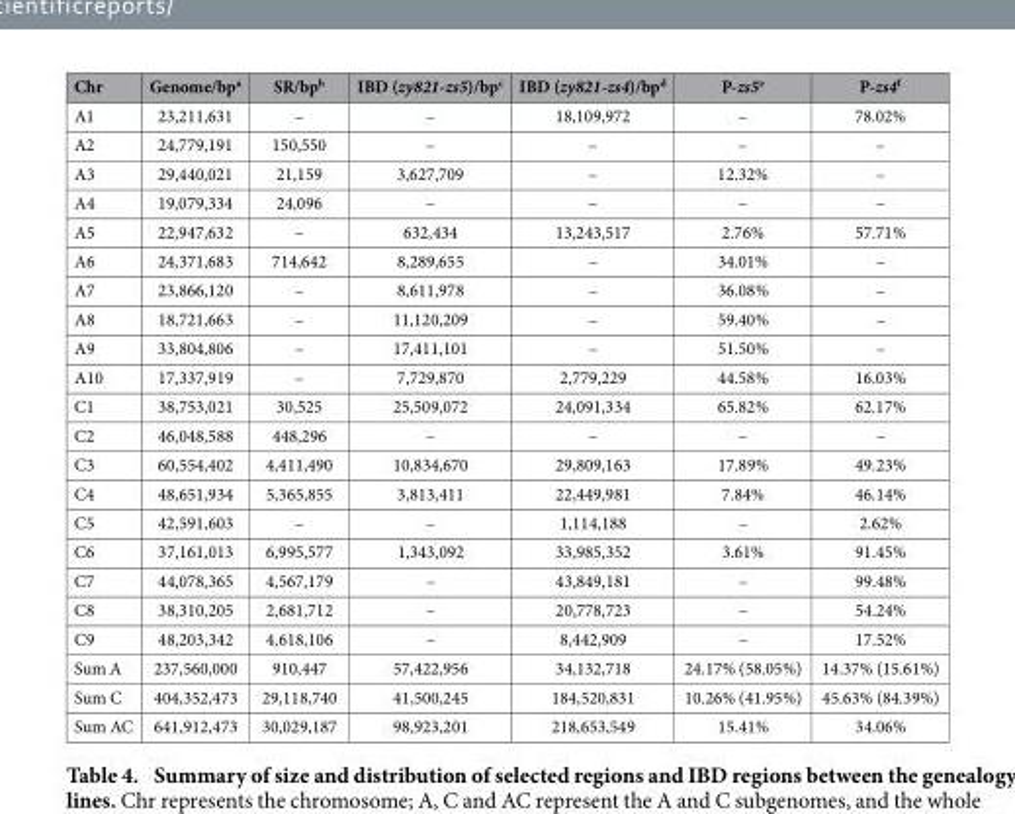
<table><thead><tr><td>Chr</td><td>Genome/bp<sup>a</sup></td><td>SR/bp<sup>b</sup></td><td>IBD (zy821-zs5)/bp<sup>c</sup></td><td>IBD (zy821-zs4)/bp<sup>d</sup></td><td>P-zs5<sup>e</sup></td><td>P-zs4<sup>f</sup></td></tr></thead><tbody><tr><td>A1</td><td>23,211,631</td><td>–</td><td>–</td><td>18,109,972</td><td>–</td><td>78.02%</td></tr><tr><td>A2</td><td>24,779,191</td><td>150,550</td><td>–</td><td>–</td><td>–</td><td>–</td></tr><tr><td>A3</td><td>29,440,021</td><td>21,159</td><td>3,627,709</td><td>–</td><td>12.32%</td><td>–</td></tr><tr><td>A4</td><td>19,079,334</td><td>24,096</td><td>–</td><td>–</td><td>–</td><td>–</td></tr><tr><td>A5</td><td>22,947,632</td><td>–</td><td>632,434</td><td>13,243,517</td><td>2.76%</td><td>57.71%</td></tr><tr><td>A6</td><td>24,371,683</td><td>714,642</td><td>8,289,655</td><td>–</td><td>34.01%</td><td>–</td></tr><tr><td>A7</td><td>23,866,120</td><td>–</td><td>8,611,978</td><td>–</td><td>36.08%</td><td>–</td></tr><tr><td>A8</td><td>18,721,663</td><td>–</td><td>11,120,209</td><td>–</td><td>59.40%</td><td>–</td></tr><tr><td>A9</td><td>33,804,806</td><td>–</td><td>17,411,101</td><td>–</td><td>51.50%</td><td>–</td></tr><tr><td>A10</td><td>17,337,919</td><td>–</td><td>7,729,870</td><td>2,779,229</td><td>44.58%</td><td>16.03%</td></tr><tr><td>C1</td><td>38,753,021</td><td>30,525</td><td>25,509,072</td><td>24,091,334</td><td>65.82%</td><td>62.17%</td></tr><tr><td>C2</td><td>46,048,588</td><td>448,296</td><td>–</td><td>–</td><td>–</td><td>–</td></tr><tr><td>C3</td><td>60,554,402</td><td>4,411,490</td><td>10,834,670</td><td>29,809,163</td><td>17.89%</td><td>49.23%</td></tr><tr><td>C4</td><td>48,651,934</td><td>5,365,855</td><td>3,813,411</td><td>22,449,981</td><td>7.84%</td><td>46.14%</td></tr><tr><td>C5</td><td>42,591,603</td><td>–</td><td>–</td><td>1,114,188</td><td>–</td><td>2.62%</td></tr><tr><td>C6</td><td>37,161,013</td><td>6,995,577</td><td>1,343,092</td><td>33,985,352</td><td>3.61%</td><td>91.45%</td></tr><tr><td>C7</td><td>44,078,365</td><td>4,567,179</td><td>–</td><td>43,849,181</td><td>–</td><td>99.48%</td></tr><tr><td>C8</td><td>38,310,205</td><td>2,681,712</td><td>–</td><td>20,778,723</td><td>–</td><td>54.24%</td></tr><tr><td>C9</td><td>48,203,342</td><td>4,618,106</td><td>–</td><td>8,442,909</td><td>–</td><td>17.52%</td></tr><tr><td>Sum A</td><td>237,560,000</td><td>910,447</td><td>57,422,956</td><td>34,132,718</td><td>24.17% (58.05%)</td><td>14.37% (15.61%)</td></tr><tr><td>Sum C</td><td>404,352,473</td><td>29,118,740</td><td>41,500,245</td><td>184,520,831</td><td>10.26% (41.95%)</td><td>45.63% (84.39%)</td></tr><tr><td>Sum AC</td><td>641,912,473</td><td>30,029,187</td><td>98,923,201</td><td>218,653,549</td><td>15.41%</td><td>34.06%</td></tr></tbody></table>